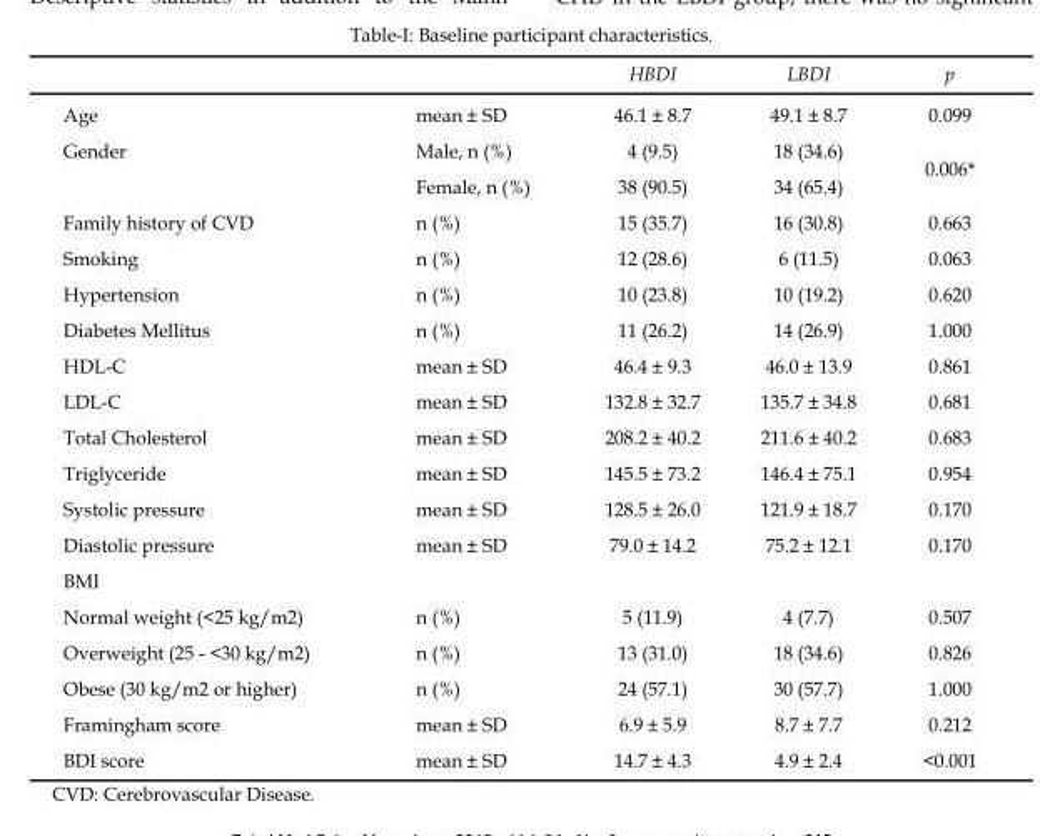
<table><thead><tr><td></td><td></td><td>HBDI</td><td>LBDI</td><td>p</td></tr></thead><tbody><tr><td>Age</td><td>mean ± SD</td><td>46.1 ± 8.7</td><td>49.1 ± 8.7</td><td>0.099</td></tr><tr><td rowspan="2">Gender</td><td>Male, n (%)</td><td>4 (9.5)</td><td>18 (34.6)</td><td rowspan="2">0.006*</td></tr><tr><td>Female, n (%)</td><td>38 (90.5)</td><td>34 (65.4)</td></tr><tr><td>Family history of CVD</td><td>n (%)</td><td>15 (35.7)</td><td>16 (30.8)</td><td>0.663</td></tr><tr><td>Smoking</td><td>n (%)</td><td>12 (28.6)</td><td>6 (11.5)</td><td>0.063</td></tr><tr><td>Hypertension</td><td>n (%)</td><td>10 (23.8)</td><td>10 (19.2)</td><td>0.620</td></tr><tr><td>Diabetes Mellitus</td><td>n (%)</td><td>11 (26.2)</td><td>14 (26.9)</td><td>1.000</td></tr><tr><td>HDL-C</td><td>mean ± SD</td><td>46.4 ± 9.3</td><td>46.0 ± 13.9</td><td>0.861</td></tr><tr><td>LDL-C</td><td>mean ± SD</td><td>132.8 ± 32.7</td><td>135.7 ± 34.8</td><td>0.681</td></tr><tr><td>Total Cholesterol</td><td>mean ± SD</td><td>208.2 ± 40.2</td><td>211.6 ± 40.2</td><td>0.683</td></tr><tr><td>Triglyceride</td><td>mean ± SD</td><td>145.5 ± 73.2</td><td>146.4 ± 75.1</td><td>0.954</td></tr><tr><td>Systolic pressure</td><td>mean ± SD</td><td>128.5 ± 26.0</td><td>121.9 ± 18.7</td><td>0.170</td></tr><tr><td>Diastolic pressure</td><td>mean ± SD</td><td>79.0 ± 14.2</td><td>75.2 ± 12.1</td><td>0.170</td></tr><tr><td colspan="5">BMI</td></tr><tr><td>Normal weight (&lt;25 kg/m2)</td><td>n (%)</td><td>5 (11.9)</td><td>4 (7.7)</td><td>0.507</td></tr><tr><td>Overweight (25 - &lt;30 kg/m2)</td><td>n (%)</td><td>13 (31.0)</td><td>18 (34.6)</td><td>0.826</td></tr><tr><td>Obese (30 kg/m2 or higher)</td><td>n (%)</td><td>24 (57.1)</td><td>30 (57.7)</td><td>1.000</td></tr><tr><td>Framingham score</td><td>mean ± SD</td><td>6.9 ± 5.9</td><td>8.7 ± 7.7</td><td>0.212</td></tr><tr><td>BDI score</td><td>mean ± SD</td><td>14.7 ± 4.3</td><td>4.9 ± 2.4</td><td>&lt;0.001</td></tr></tbody></table>